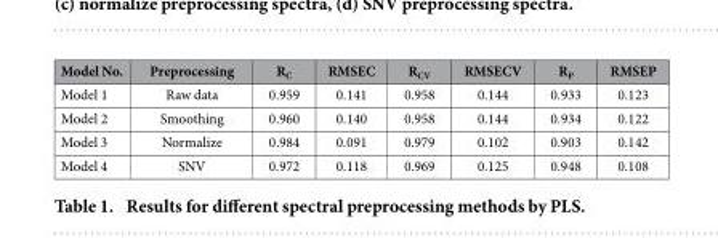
<table><thead><tr><td>Model No.</td><td>Preprocessing</td><td>R<sub>C</sub></td><td>RMSEC</td><td>R<sub>CV</sub></td><td>RMSECV</td><td>R<sub>P</sub></td><td>RMSEP</td></tr></thead><tbody><tr><td>Model 1</td><td>Raw data</td><td>0.959</td><td>0.141</td><td>0.958</td><td>0.144</td><td>0.933</td><td>0.123</td></tr><tr><td>Model 2</td><td>Smoothing</td><td>0.960</td><td>0.140</td><td>0.958</td><td>0.144</td><td>0.934</td><td>0.122</td></tr><tr><td>Model 3</td><td>Normalize</td><td>0.984</td><td>0.091</td><td>0.979</td><td>0.102</td><td>0.903</td><td>0.142</td></tr><tr><td>Model 4</td><td>SNV</td><td>0.972</td><td>0.118</td><td>0.969</td><td>0.125</td><td>0.948</td><td>0.108</td></tr></tbody></table>